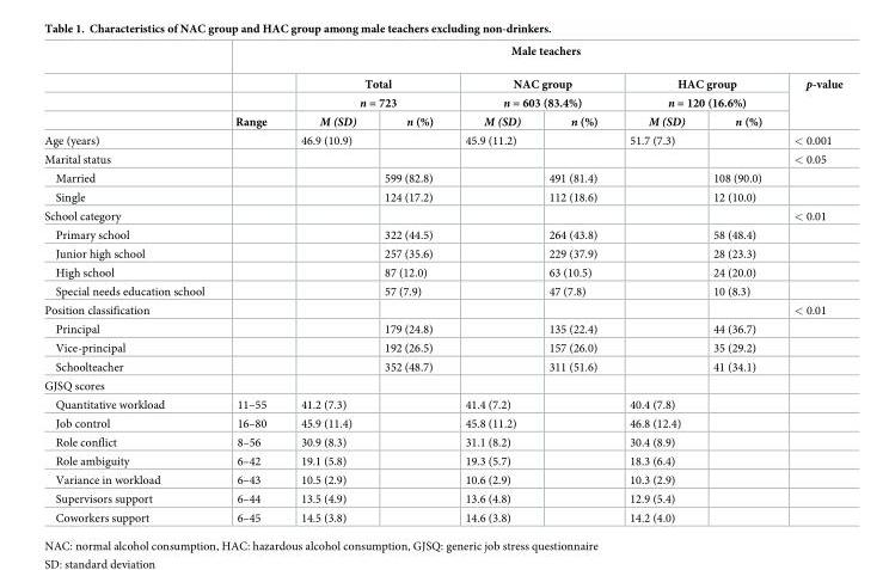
<table><thead><tr><td rowspan="4"></td><td colspan="8">Male teachers</td></tr><tr><td rowspan="3">Range</td><td rowspan="2" colspan="2">Total n = 723</td><td rowspan="2" colspan="2">NAC group n = 603 (83.4%)</td><td rowspan="2" colspan="2">HAC group n = 120 (16.6%)</td><td rowspan="3">p-value</td></tr><tr></tr><tr><td>M (SD)</td><td>n (%)</td><td>M (SD)</td><td>n (%)</td><td>M (SD)</td><td>n (%)</td></tr></thead><tbody><tr><td>Age (years)</td><td></td><td>46.9 (10.9)</td><td></td><td>45.9 (11.2)</td><td></td><td>51.7 (7.3)</td><td></td><td>&lt; 0.001</td></tr><tr><td>Marital status</td><td></td><td></td><td></td><td></td><td></td><td></td><td></td><td>&lt; 0.05</td></tr><tr><td>Married</td><td></td><td></td><td>599 (82.8)</td><td></td><td>491 (81.4)</td><td></td><td>108 (90.0)</td><td></td></tr><tr><td>Single</td><td></td><td></td><td>124 (17.2)</td><td></td><td>112 (18.6)</td><td></td><td>12 (10.0)</td><td></td></tr><tr><td>School category</td><td></td><td></td><td></td><td></td><td></td><td></td><td></td><td>&lt; 0.01</td></tr><tr><td>Primary school</td><td></td><td></td><td>322 (44.5)</td><td></td><td>264 (43.8)</td><td></td><td>58 (48.4)</td><td></td></tr><tr><td>Junior high school</td><td></td><td></td><td>257 (35.6)</td><td></td><td>229 (37.9)</td><td></td><td>28 (23.3)</td><td></td></tr><tr><td>High school</td><td></td><td></td><td>87 (12.0)</td><td></td><td>63 (10.5)</td><td></td><td>24 (20.0)</td><td></td></tr><tr><td>Special needs education school</td><td></td><td></td><td>57 (7.9)</td><td></td><td>47 (7.8)</td><td></td><td>10 (8.3)</td><td></td></tr><tr><td>Position classification</td><td></td><td></td><td></td><td></td><td></td><td></td><td></td><td>&lt; 0.01</td></tr><tr><td>Principal</td><td></td><td></td><td>179 (24.8)</td><td></td><td>135 (22.4)</td><td></td><td>44 (36.7)</td><td></td></tr><tr><td>Vice-principal</td><td></td><td></td><td>192 (26.5)</td><td></td><td>157 (26.0)</td><td></td><td>35 (29.2)</td><td></td></tr><tr><td>Schoolteacher</td><td></td><td></td><td>352 (48.7)</td><td></td><td>311 (51.6)</td><td></td><td>41 (34.1)</td><td></td></tr><tr><td colspan="9">GJSQ scores</td></tr><tr><td>Quantitative workload</td><td>11–55</td><td>41.2 (7.3)</td><td></td><td>41.4 (7.2)</td><td></td><td>40.4 (7.8)</td><td></td><td></td></tr><tr><td>Job control</td><td>16–80</td><td>45.9 (11.4)</td><td></td><td>45.8 (11.2)</td><td></td><td>46.8 (12.4)</td><td></td><td></td></tr><tr><td>Role conflict</td><td>8–56</td><td>30.9 (8.3)</td><td></td><td>31.1 (8.2)</td><td></td><td>30.4 (8.9)</td><td></td><td></td></tr><tr><td>Role ambiguity</td><td>6–42</td><td>19.1 (5.8)</td><td></td><td>19.3 (5.7)</td><td></td><td>18.3 (6.4)</td><td></td><td></td></tr><tr><td>Variance in workload</td><td>6–43</td><td>10.5 (2.9)</td><td></td><td>10.6 (2.9)</td><td></td><td>10.3 (2.9)</td><td></td><td></td></tr><tr><td>Supervisors support</td><td>6–44</td><td>13.5 (4.9)</td><td></td><td>13.6 (4.8)</td><td></td><td>12.9 (5.4)</td><td></td><td></td></tr><tr><td>Coworkers support</td><td>6–45</td><td>14.5 (3.8)</td><td></td><td>14.6 (3.8)</td><td></td><td>14.2 (4.0)</td><td></td><td></td></tr></tbody></table>